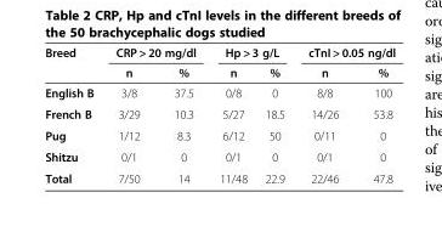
<table><thead><tr><td rowspan="2">Breed</td><td colspan="2">CRP &gt; 20 mg/dl</td><td colspan="2">Hp &gt; 3 g/L</td><td colspan="2">cTnI &gt; 0.05 ng/dl</td></tr><tr><td>n</td><td>%</td><td>n</td><td>%</td><td>n</td><td>%</td></tr></thead><tbody><tr><td>English B</td><td>3/8</td><td>37.5</td><td>0/8</td><td>0</td><td>8/8</td><td>100</td></tr><tr><td>French B</td><td>3/29</td><td>10.3</td><td>5/27</td><td>18.5</td><td>14/26</td><td>53.8</td></tr><tr><td>Pug</td><td>1/12</td><td>8.3</td><td>6/12</td><td>50</td><td>0/11</td><td>0</td></tr><tr><td>Shitzu</td><td>0/1</td><td>0</td><td>0/1</td><td>0</td><td>0/1</td><td>0</td></tr><tr><td>Total</td><td>7/50</td><td>14</td><td>11/48</td><td>22.9</td><td>22/46</td><td>47.8</td></tr></tbody></table>